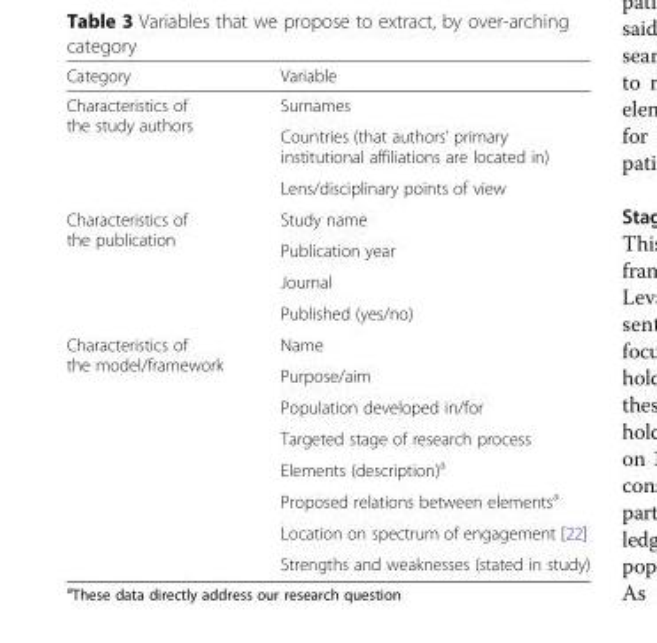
<table><thead><tr><td>Category</td><td>Variable</td></tr></thead><tbody><tr><td rowspan="3">Characteristics of the study authors</td><td>Surnames</td></tr><tr><td>Countries (that authors’ primary institutional affiliations are located in)</td></tr><tr><td>Lens/disciplinary points of view</td></tr><tr><td rowspan="4">Characteristics of the publication</td><td>Study name</td></tr><tr><td>Publication year</td></tr><tr><td>Journal</td></tr><tr><td>Published (yes/no)</td></tr><tr><td rowspan="8">Characteristics of the model/framework</td><td>Name</td></tr><tr><td>Purpose/aim</td></tr><tr><td>Population developed in/for</td></tr><tr><td>Targeted stage of research process</td></tr><tr><td>Elements (description)<sup>a</sup></td></tr><tr><td>Proposed relations between elements<sup>a</sup></td></tr><tr><td>Location on spectrum of engagement [22]</td></tr><tr><td>Strengths and weaknesses (stated in study)</td></tr></tbody></table>